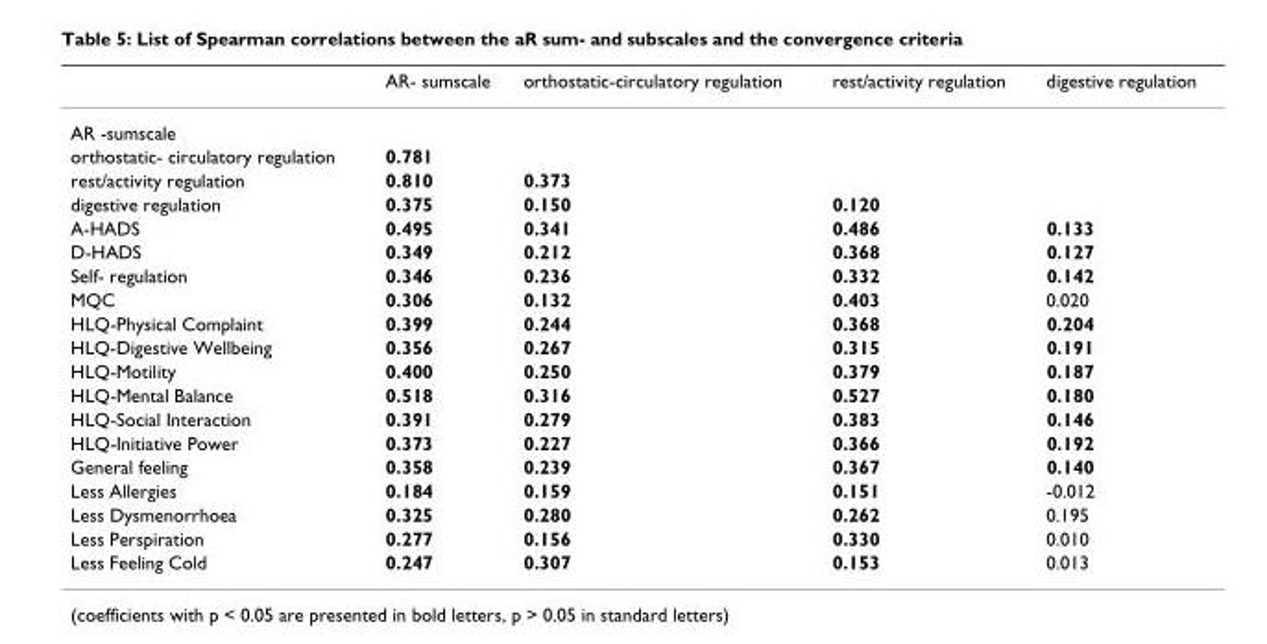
<table><thead><tr><td></td><td>AR- sumscale</td><td>orthostatic-circulatory regulation</td><td>rest/activity regulation</td><td>digestive regulation</td></tr></thead><tbody><tr><td colspan="5">AR -sumscale</td></tr><tr><td>orthostatic- circulatory regulation</td><td>0.781</td><td></td><td></td><td></td></tr><tr><td>rest/activity regulation</td><td>0.810</td><td>0.373</td><td></td><td></td></tr><tr><td>digestive regulation</td><td>0.375</td><td>0.150</td><td>0.120</td><td></td></tr><tr><td>A-HADS</td><td>0.495</td><td>0.341</td><td>0.486</td><td>0.133</td></tr><tr><td>D-HADS</td><td>0.349</td><td>0.212</td><td>0.368</td><td>0.127</td></tr><tr><td>Self- regulation</td><td>0.346</td><td>0.236</td><td>0.332</td><td>0.142</td></tr><tr><td>MQC</td><td>0.306</td><td>0.132</td><td>0.403</td><td>0.020</td></tr><tr><td>HLQ-Physical Complaint</td><td>0.399</td><td>0.244</td><td>0.368</td><td>0.204</td></tr><tr><td>HLQ-Digestive Wellbeing</td><td>0.356</td><td>0.267</td><td>0.315</td><td>0.191</td></tr><tr><td>HLQ-Motility</td><td>0.400</td><td>0.250</td><td>0.379</td><td>0.187</td></tr><tr><td>HLQ-Mental Balance</td><td>0.518</td><td>0.316</td><td>0.527</td><td>0.180</td></tr><tr><td>HLQ-Social Interaction</td><td>0.391</td><td>0.279</td><td>0.383</td><td>0.146</td></tr><tr><td>HLQ-Initiative Power</td><td>0.373</td><td>0.227</td><td>0.366</td><td>0.192</td></tr><tr><td>General feeling</td><td>0.358</td><td>0.239</td><td>0.367</td><td>0.140</td></tr><tr><td>Less Allergies</td><td>0.184</td><td>0.159</td><td>0.151</td><td>-0.012</td></tr><tr><td>Less Dysmenorrhoea</td><td>0.325</td><td>0.280</td><td>0.262</td><td>0.195</td></tr><tr><td>Less Perspiration</td><td>0.277</td><td>0.156</td><td>0.330</td><td>0.010</td></tr><tr><td>Less Feeling Cold</td><td>0.247</td><td>0.307</td><td>0.153</td><td>0.013</td></tr></tbody></table>